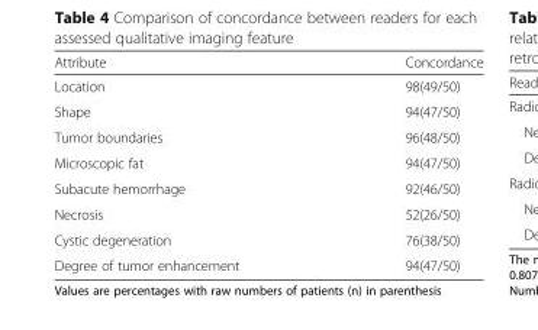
<table><thead><tr><td>Attribute</td><td>Concordance</td></tr></thead><tbody><tr><td>Location</td><td>98(49/50)</td></tr><tr><td>Shape</td><td>94(47/50)</td></tr><tr><td>Tumor boundaries</td><td>96(48/50)</td></tr><tr><td>Microscopic fat</td><td>94(47/50)</td></tr><tr><td>Subacute hemorrhage</td><td>92(46/50)</td></tr><tr><td>Necrosis</td><td>52(26/50)</td></tr><tr><td>Cystic degeneration</td><td>76(38/50)</td></tr><tr><td>Degree of tumor enhancement</td><td>94(47/50)</td></tr></tbody></table>